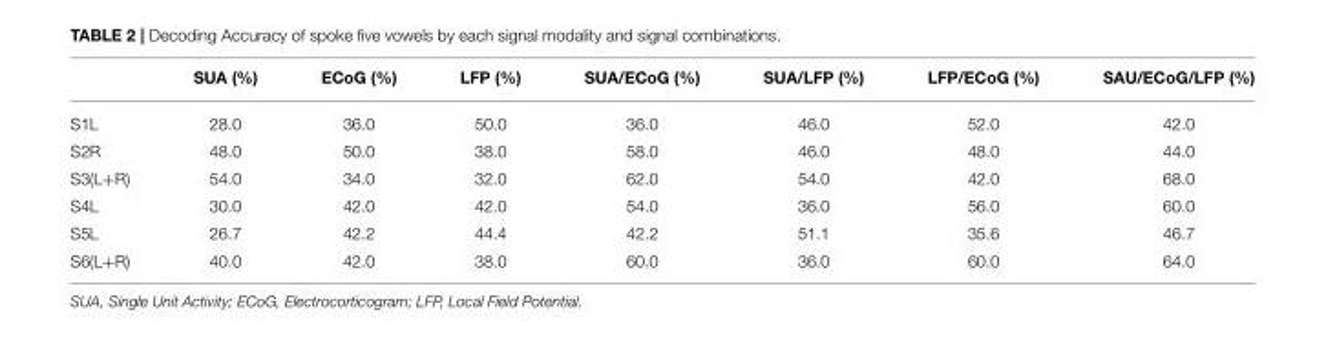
<table><thead><tr><td></td><td>SUA (%)</td><td>ECoG (%)</td><td>LFP (%)</td><td>SUA/ECoG (%)</td><td>SUA/LFP (%)</td><td>LFP/ECoG (%)</td><td>SAU/ECoG/LFP (%)</td></tr></thead><tbody><tr><td>S1L</td><td>28.0</td><td>36.0</td><td>50.0</td><td>36.0</td><td>46.0</td><td>52.0</td><td>42.0</td></tr><tr><td>S2R</td><td>48.0</td><td>50.0</td><td>38.0</td><td>58.0</td><td>46.0</td><td>48.0</td><td>44.0</td></tr><tr><td>S3(L+R)</td><td>54.0</td><td>34.0</td><td>32.0</td><td>62.0</td><td>54.0</td><td>42.0</td><td>68.0</td></tr><tr><td>S4L</td><td>30.0</td><td>42.0</td><td>42.0</td><td>54.0</td><td>36.0</td><td>56.0</td><td>60.0</td></tr><tr><td>S5L</td><td>26.7</td><td>42.2</td><td>44.4</td><td>42.2</td><td>51.1</td><td>35.6</td><td>46.7</td></tr><tr><td>S6(L+R)</td><td>40.0</td><td>42.0</td><td>38.0</td><td>60.0</td><td>36.0</td><td>60.0</td><td>64.0</td></tr></tbody></table>